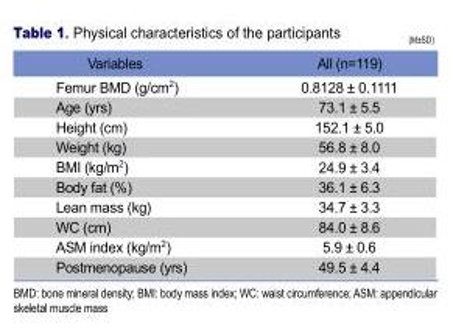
<table><thead><tr><td>Variables</td><td>All (n=119)</td></tr></thead><tbody><tr><td>Femur BMD (g/cm<sup>2</sup>)</td><td>0.8128 ± 0.1111</td></tr><tr><td>Age (yrs)</td><td>73.1 ± 5.5</td></tr><tr><td>Height (cm)</td><td>152.1 ± 5.0</td></tr><tr><td>Weight (kg)</td><td>56.8 ± 8.0</td></tr><tr><td>BMI (kg/m<sup>2</sup>)</td><td>24.9 ± 3.4</td></tr><tr><td>Body fat (%)</td><td>36.1 ± 6.3</td></tr><tr><td>Lean mass (kg)</td><td>34.7 ± 3.3</td></tr><tr><td>WC (cm)</td><td>84.0 ± 8.6</td></tr><tr><td>ASM index (kg/m<sup>2</sup>)</td><td>5.9 ± 0.6</td></tr><tr><td>Postmenopause (yrs)</td><td>49.5 ± 4.4</td></tr></tbody></table>